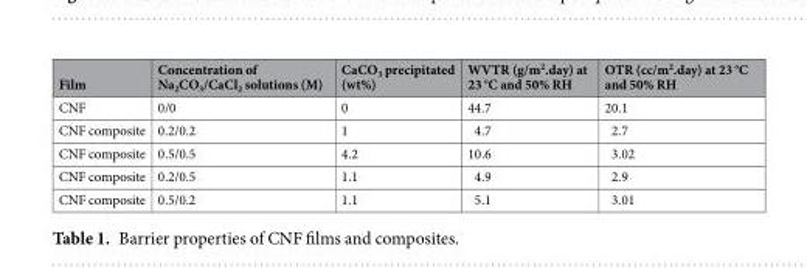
<table><thead><tr><td>Film</td><td>Concentration of Na<sub>2</sub>CO<sub>3</sub>/CaCl<sub>2</sub> solutions (M)</td><td>CaCO<sub>3</sub> precipitated (wt%)</td><td>WVTR (g/m<sup>2</sup>.day) at 23 °C and 50% RH</td><td>OTR (cc/m<sup>2</sup>.day) at 23 °C and 50% RH</td></tr></thead><tbody><tr><td>CNF</td><td>0/0</td><td>0</td><td>44.7</td><td>20.1</td></tr><tr><td>CNF composite</td><td>0.2/0.2</td><td>1</td><td>4.7</td><td>2.7</td></tr><tr><td>CNF composite</td><td>0.5/0.5</td><td>4.2</td><td>10.6</td><td>3.02</td></tr><tr><td>CNF composite</td><td>0.2/0.5</td><td>1.1</td><td>4.9</td><td>2.9</td></tr><tr><td>CNF composite</td><td>0.5/0.2</td><td>1.1</td><td>5.1</td><td>3.01</td></tr></tbody></table>